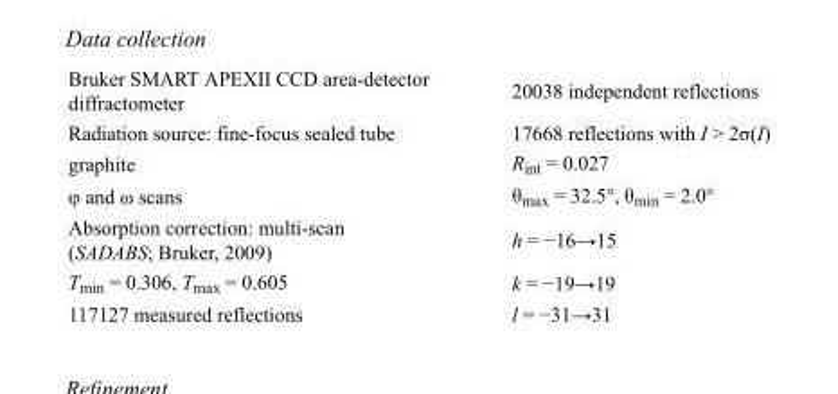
<table><tbody><tr><td>Bruker SMART APEXII CCD area-detector diffractometer</td><td>20038 independent reflections</td></tr><tr><td>Radiation source: fine-focus sealed tube</td><td>17668 reflections with I &gt; 2σ(I)</td></tr><tr><td>graphite</td><td>R<sub>int</sub> = 0.027</td></tr><tr><td>φ and ω scans</td><td>θ<sub>max</sub> = 32.5°, θ<sub>min</sub> = 2.0°</td></tr><tr><td>Absorption correction: multi-scan (SADABS; Bruker, 2009)</td><td>h = −16→15</td></tr><tr><td>T<sub>min</sub> = 0.306, T<sub>max</sub> = 0.605</td><td>k = −19→19</td></tr><tr><td>117127 measured reflections</td><td>l = −31→31</td></tr></tbody></table>